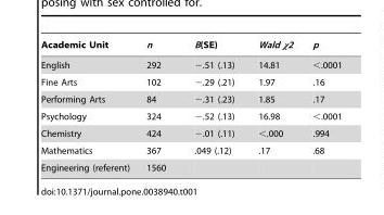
<table><thead><tr><td>Academic Unit</td><td>n</td><td>B(SE)</td><td>Wald χ2</td><td>p</td></tr></thead><tbody><tr><td>English</td><td>292</td><td>−.51 (.13)</td><td>14.81</td><td>&lt;.0001</td></tr><tr><td>Fine Arts</td><td>102</td><td>−.29 (.21)</td><td>1.97</td><td>.16</td></tr><tr><td>Performing Arts</td><td>84</td><td>−.31 (.23)</td><td>1.85</td><td>.17</td></tr><tr><td>Psychology</td><td>324</td><td>−.52 (.13)</td><td>16.98</td><td>&lt;.0001</td></tr><tr><td>Chemistry</td><td>424</td><td>−.01 (.11)</td><td>&lt;.000</td><td>.994</td></tr><tr><td>Mathematics</td><td>367</td><td>.049 (.12)</td><td>.17</td><td>.68</td></tr><tr><td>Engineering (referent)</td><td>1560</td><td></td><td></td><td></td></tr></tbody></table>